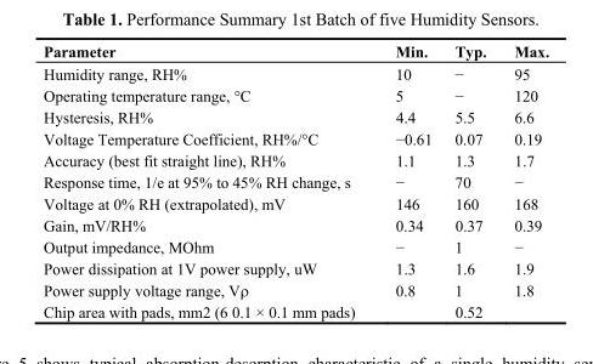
<table><thead><tr><td>Parameter</td><td>Min.</td><td>Typ.</td><td>Max.</td></tr></thead><tbody><tr><td>Humidity range, RH%</td><td>10</td><td>−</td><td>95</td></tr><tr><td>Operating temperature range, °C</td><td>5</td><td>−</td><td>120</td></tr><tr><td>Hysteresis, RH%</td><td>4.4</td><td>5.5</td><td>6.6</td></tr><tr><td>Voltage Temperature Coefficient, RH%/°C</td><td>−0.61</td><td>0.07</td><td>0.19</td></tr><tr><td>Accuracy (best fit straight line), RH%</td><td>1.1</td><td>1.3</td><td>1.7</td></tr><tr><td>Response time, 1/e at 95% to 45% RH change, s</td><td>−</td><td>70</td><td>−</td></tr><tr><td>Voltage at 0% RH (extrapolated), mV</td><td>146</td><td>160</td><td>168</td></tr><tr><td>Gain, mV/RH%</td><td>0.34</td><td>0.37</td><td>0.39</td></tr><tr><td>Output impedance, MOhm</td><td>−</td><td>1</td><td>−</td></tr><tr><td>Power dissipation at 1V power supply, uW</td><td>1.3</td><td>1.6</td><td>1.9</td></tr><tr><td>Power supply voltage range, Vρ</td><td>0.8</td><td>1</td><td>1.8</td></tr><tr><td>Chip area with pads, mm2 (6 0.1 × 0.1 mm pads)</td><td></td><td>0.52</td><td></td></tr></tbody></table>